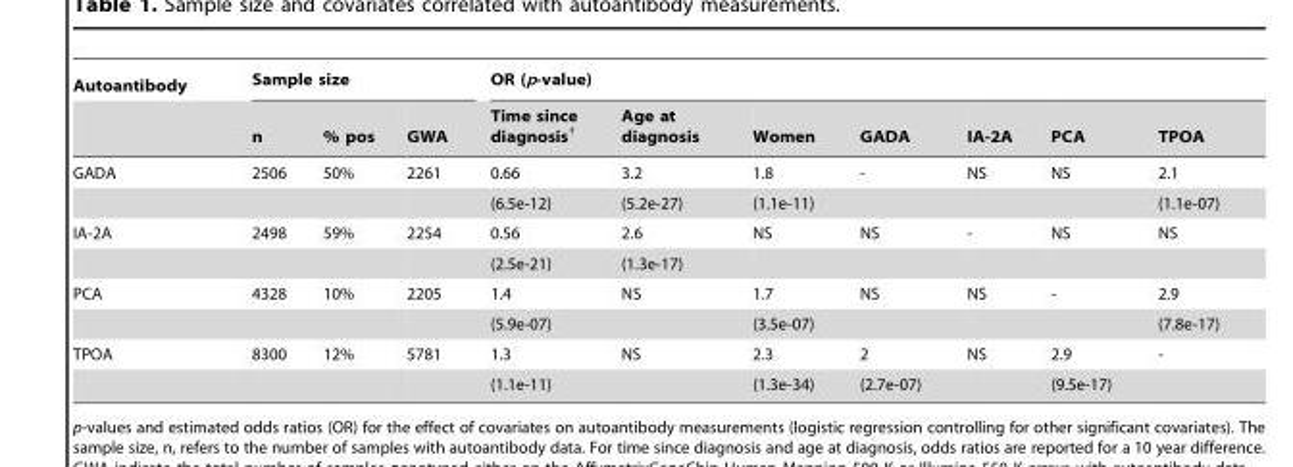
<table><thead><tr><td rowspan="2">Autoantibody</td><td colspan="3">Sample size</td><td colspan="7">OR (p-value)</td></tr><tr><td>n</td><td>% pos</td><td>GWA</td><td>Time since diagnosis†</td><td>Age at diagnosis</td><td>Women</td><td>GADA</td><td>IA-2A</td><td>PCA</td><td>TPOA</td></tr></thead><tbody><tr><td rowspan="2">GADA</td><td>2506</td><td>50%</td><td>2261</td><td>0.66</td><td>3.2</td><td>1.8</td><td>-</td><td>NS</td><td>NS</td><td>2.1</td></tr><tr><td></td><td></td><td></td><td>(6.5e-12)</td><td>(5.2e-27)</td><td>(1.1e-11)</td><td></td><td></td><td></td><td>(1.1e-07)</td></tr><tr><td rowspan="2">IA-2A</td><td>2498</td><td>59%</td><td>2254</td><td>0.56</td><td>2.6</td><td>NS</td><td>NS</td><td>-</td><td>NS</td><td>NS</td></tr><tr><td></td><td></td><td></td><td>(2.5e-21)</td><td>(1.3e-17)</td><td></td><td></td><td></td><td></td><td></td></tr><tr><td rowspan="2">PCA</td><td>4328</td><td>10%</td><td>2205</td><td>1.4</td><td>NS</td><td>1.7</td><td>NS</td><td>NS</td><td>-</td><td>2.9</td></tr><tr><td></td><td></td><td></td><td>(5.9e-07)</td><td></td><td>(3.5e-07)</td><td></td><td></td><td></td><td>(7.8e-17)</td></tr><tr><td rowspan="2">TPOA</td><td>8300</td><td>12%</td><td>5781</td><td>1.3</td><td>NS</td><td>2.3</td><td>2</td><td>NS</td><td>2.9</td><td>-</td></tr><tr><td></td><td></td><td></td><td>(1.1e-11)</td><td></td><td>(1.3e-34)</td><td>(2.7e-07)</td><td></td><td>(9.5e-17)</td><td></td></tr></tbody></table>